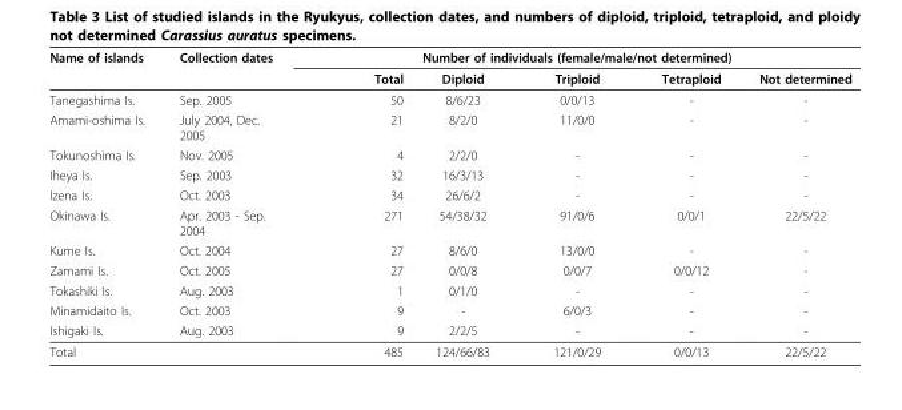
<table><thead><tr><td rowspan="2">Name of islands</td><td rowspan="2">Collection dates</td><td colspan="5">Number of individuals (female/male/not determined)</td></tr><tr><td>Total</td><td>Diploid</td><td>Triploid</td><td>Tetraploid</td><td>Not determined</td></tr></thead><tbody><tr><td>Tanegashima Is.</td><td>Sep. 2005</td><td>50</td><td>8/6/23</td><td>0/0/13</td><td>-</td><td>-</td></tr><tr><td>Amami-oshima Is.</td><td>July 2004, Dec. 2005</td><td>21</td><td>8/2/0</td><td>11/0/0</td><td>-</td><td>-</td></tr><tr><td>Tokunoshima Is.</td><td>Nov. 2005</td><td>4</td><td>2/2/0</td><td>-</td><td>-</td><td>-</td></tr><tr><td>Iheya Is.</td><td>Sep. 2003</td><td>32</td><td>16/3/13</td><td>-</td><td>-</td><td>-</td></tr><tr><td>Izena Is.</td><td>Oct. 2003</td><td>34</td><td>26/6/2</td><td>-</td><td>-</td><td>-</td></tr><tr><td>Okinawa Is.</td><td>Apr. 2003 - Sep. 2004</td><td>271</td><td>54/38/32</td><td>91/0/6</td><td>0/0/1</td><td>22/5/22</td></tr><tr><td>Kume Is.</td><td>Oct. 2004</td><td>27</td><td>8/6/0</td><td>13/0/0</td><td>-</td><td>-</td></tr><tr><td>Zamami Is.</td><td>Oct. 2005</td><td>27</td><td>0/0/8</td><td>0/0/7</td><td>0/0/12</td><td>-</td></tr><tr><td>Tokashiki Is.</td><td>Aug. 2003</td><td>1</td><td>0/1/0</td><td>-</td><td>-</td><td>-</td></tr><tr><td>Minamidaito Is.</td><td>Oct. 2003</td><td>9</td><td>-</td><td>6/0/3</td><td>-</td><td>-</td></tr><tr><td>Ishigaki Is.</td><td>Aug. 2003</td><td>9</td><td>2/2/5</td><td>-</td><td>-</td><td>-</td></tr><tr><td>Total</td><td></td><td>485</td><td>124/66/83</td><td>121/0/29</td><td>0/0/13</td><td>22/5/22</td></tr></tbody></table>